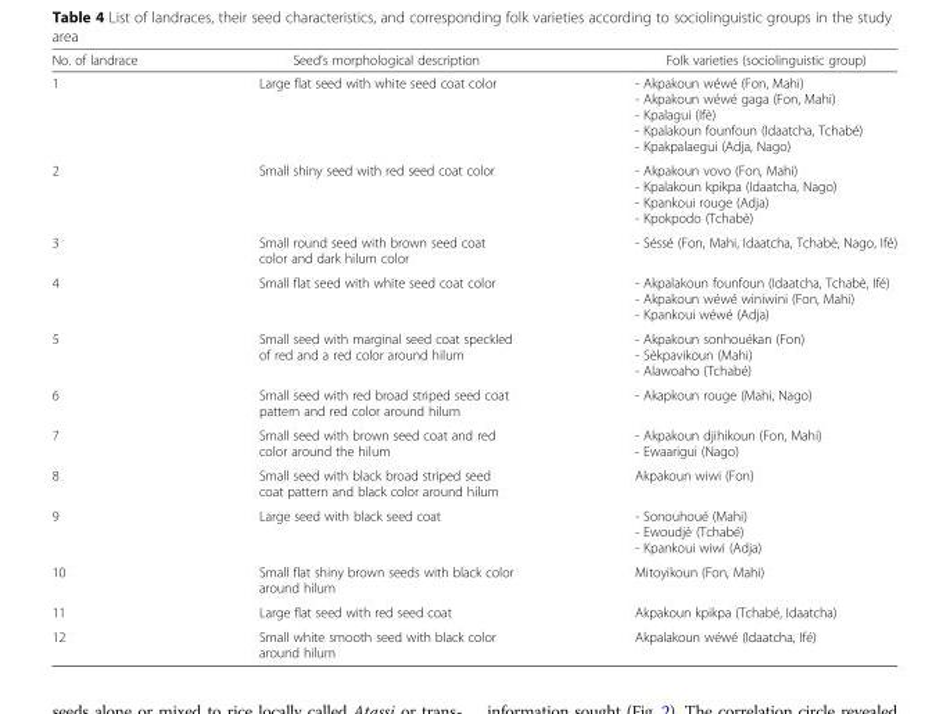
<table><thead><tr><td>No. of landrace</td><td>Seed’s morphological description</td><td>Folk varieties (sociolinguistic group)</td></tr></thead><tbody><tr><td>1</td><td>Large flat seed with white seed coat color</td><td>- Akpakoun wéwé (Fon, Mahi) - Akpakoun wéwé gaga (Fon, Mahi) - Kpalagui (Ifè) - Kpalakoun founfoun (Idaatcha, Tchabé) - Kpakpalaegui (Adja, Nago)</td></tr><tr><td>2</td><td>Small shiny seed with red seed coat color</td><td>- Akpakoun vovo (Fon, Mahi) - Kpalakoun kpikpa (Idaatcha, Nago) - Kpankoui rouge (Adja) - Kpokpodo (Tchabè)</td></tr><tr><td>3</td><td>Small round seed with brown seed coat color and dark hilum color</td><td>- Séssé (Fon, Mahi, Idaatcha, Tchabè, Nago, Ifé)</td></tr><tr><td>4</td><td>Small flat seed with white seed coat color</td><td>- Akpalakoun founfoun (Idaatcha, Tchabè, Ifé) - Akpakoun wéwé winiwini (Fon, Mahi) - Kpankoui wéwé (Adja)</td></tr><tr><td>5</td><td>Small seed with marginal seed coat speckled of red and a red color around hilum</td><td>- Akpakoun sonhouékan (Fon) - Sèkpavikoun (Mahi) - Alawoaho (Tchabé)</td></tr><tr><td>6</td><td>Small seed with red broad striped seed coat pattern and red color around hilum</td><td>- Akapkoun rouge (Mahi, Nago)</td></tr><tr><td>7</td><td>Small seed with brown seed coat and red color around the hilum</td><td>- Akpakoun djihikoun (Fon, Mahi) - Ewaarigui (Nago)</td></tr><tr><td>8</td><td>Small seed with black broad striped seed coat pattern and black color around hilum</td><td>Akpakoun wiwi (Fon)</td></tr><tr><td>9</td><td>Large seed with black seed coat</td><td>- Sonouhoué (Mahi) - Ewoudjè (Tchabé) - Kpankoui wiwi (Adja)</td></tr><tr><td>10</td><td>Small flat shiny brown seeds with black color around hilum</td><td>Mitoyikoun (Fon, Mahi)</td></tr><tr><td>11</td><td>Large flat seed with red seed coat</td><td>Akpakoun kpikpa (Tchabé, Idaatcha)</td></tr><tr><td>12</td><td>Small white smooth seed with black color around hilum</td><td>Akpalakoun wéwé (Idaatcha, Ifé)</td></tr></tbody></table>